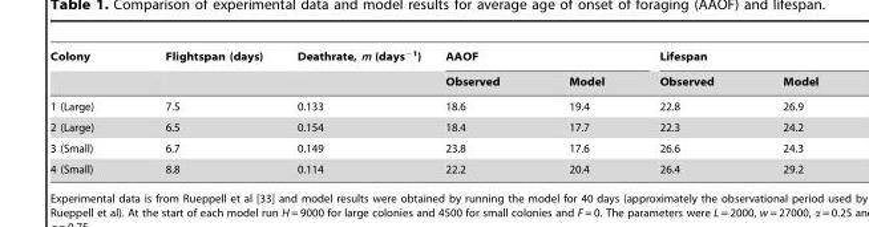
<table><thead><tr><td rowspan="2">Colony</td><td rowspan="2">Flightspan (days)</td><td rowspan="2">Deathrate, m (days<sup>−1</sup>)</td><td colspan="2">AAOF</td><td colspan="2">Lifespan</td></tr><tr><td>Observed</td><td>Model</td><td>Observed</td><td>Model</td></tr></thead><tbody><tr><td>1 (Large)</td><td>7.5</td><td>0.133</td><td>18.6</td><td>19.4</td><td>22.8</td><td>26.9</td></tr><tr><td>2 (Large)</td><td>6.5</td><td>0.154</td><td>18.4</td><td>17.7</td><td>22.3</td><td>24.2</td></tr><tr><td>3 (Small)</td><td>6.7</td><td>0.149</td><td>23.8</td><td>17.6</td><td>26.6</td><td>24.3</td></tr><tr><td>4 (Small)</td><td>8.8</td><td>0.114</td><td>22.2</td><td>20.4</td><td>26.4</td><td>29.2</td></tr></tbody></table>